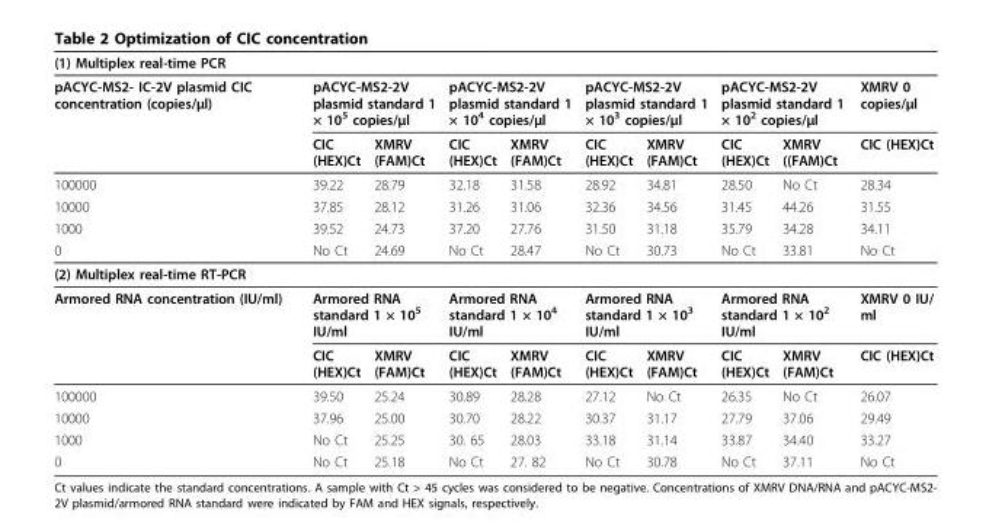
<table><thead><tr><td colspan="10">(1) Multiplex real-time PCR</td></tr><tr><td rowspan="2">pACYC-MS2- IC-2V plasmid CIC concentration (copies/μl)</td><td colspan="2">pACYC-MS2-2V plasmid standard 1 × 10<sup>5</sup> copies/μl</td><td colspan="2">pACYC-MS2-2V plasmid standard 1 × 10<sup>4</sup> copies/μl</td><td colspan="2">pACYC-MS2-2V plasmid standard 1 × 10<sup>3</sup> copies/μl</td><td colspan="2">pACYC-MS2-2V plasmid standard 1 × 10<sup>2</sup> copies/μl</td><td rowspan="2">XMRV 0 copies/μl CIC (HEX)Ct</td></tr><tr><td>CIC (HEX)Ct</td><td>XMRV (FAM)Ct</td><td>CIC (HEX)Ct</td><td>XMRV (FAM)Ct</td><td>CIC (HEX)Ct</td><td>XMRV (FAM)Ct</td><td>CIC (HEX)Ct</td><td>XMRV ((FAM)Ct</td></tr></thead><tbody><tr><td>100000</td><td>39.22</td><td>28.79</td><td>32.18</td><td>31.58</td><td>28.92</td><td>34.81</td><td>28.50</td><td>No Ct</td><td>28.34</td></tr><tr><td>10000</td><td>37.85</td><td>28.12</td><td>31.26</td><td>31.06</td><td>32.36</td><td>34.56</td><td>31.45</td><td>44.26</td><td>31.55</td></tr><tr><td>1000</td><td>39.52</td><td>24.73</td><td>37.20</td><td>27.76</td><td>31.50</td><td>31.18</td><td>35.79</td><td>34.28</td><td>34.11</td></tr><tr><td>0</td><td>No Ct</td><td>24.69</td><td>No Ct</td><td>28.47</td><td>No Ct</td><td>30.73</td><td>No Ct</td><td>33.81</td><td>No Ct</td></tr><tr><td colspan="10">(2) Multiplex real-time RT-PCR</td></tr><tr><td rowspan="2">Armored RNA concentration (IU/ml)</td><td colspan="2">Armored RNA standard 1 × 10<sup>5</sup> IU/ml</td><td colspan="2">Armored RNA standard 1 × 10<sup>4</sup> IU/ml</td><td colspan="2">Armored RNA standard 1 × 10<sup>3</sup> IU/ml</td><td colspan="2">Armored RNA standard 1 × 10<sup>2</sup> IU/ml</td><td>XMRV 0 IU/ ml</td></tr><tr><td>CIC (HEX)Ct</td><td>XMRV (FAM)Ct</td><td>CIC (HEX)Ct</td><td>XMRV (FAM)Ct</td><td>CIC (HEX)Ct</td><td>XMRV (FAM)Ct</td><td>CIC (HEX)Ct</td><td>XMRV (FAM)Ct</td><td>CIC (HEX)Ct</td></tr><tr><td>100000</td><td>39.50</td><td>25.24</td><td>30.89</td><td>28.28</td><td>27.12</td><td>No Ct</td><td>26.35</td><td>No Ct</td><td>26.07</td></tr><tr><td>10000</td><td>37.96</td><td>25.00</td><td>30.70</td><td>28.22</td><td>30.37</td><td>31.17</td><td>27.79</td><td>37.06</td><td>29.49</td></tr><tr><td>1000</td><td>No Ct</td><td>25.25</td><td>30. 65</td><td>28.03</td><td>33.18</td><td>31.14</td><td>33.87</td><td>34.40</td><td>33.27</td></tr><tr><td>0</td><td>No Ct</td><td>25.18</td><td>No Ct</td><td>27. 82</td><td>No Ct</td><td>30.78</td><td>No Ct</td><td>37.11</td><td>No Ct</td></tr></tbody></table>